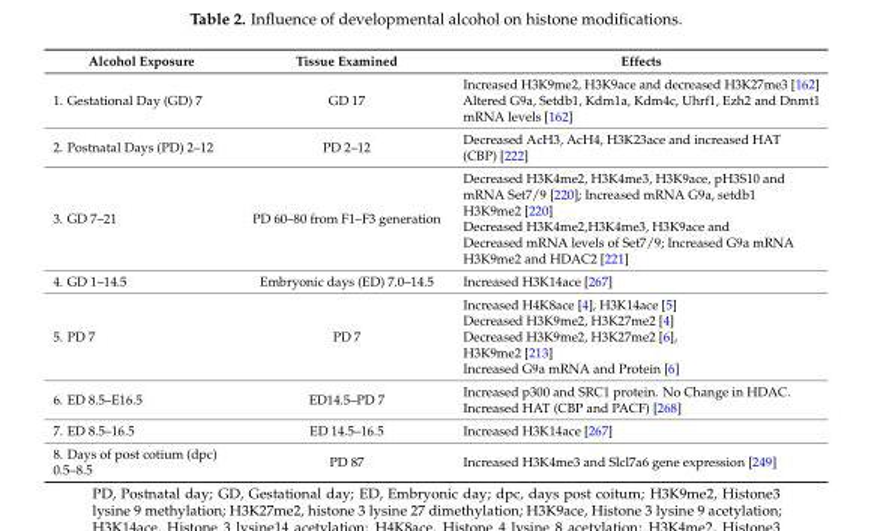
<table><thead><tr><td>Alcohol Exposure</td><td>Tissue Examined</td><td>Effects</td></tr></thead><tbody><tr><td>1. Gestational Day (GD) 7</td><td>GD 17</td><td>Increased H3K9me2, H3K9ace and decreased H3K27me3 [162] Altered G9a, Setdb1, Kdm1a, Kdm4c, Uhrf1, Ezh2 and Dnmt1 mRNA levels [162]</td></tr><tr><td>2. Postnatal Days (PD) 2–12</td><td>PD 2–12</td><td>Decreased AcH3, AcH4, H3K23ace and increased HAT (CBP) [222]</td></tr><tr><td>3. GD 7–21</td><td>PD 60–80 from F1–F3 generation</td><td>Decreased H3K4me2, H3K4me3, H3K9ace, pH3S10 and mRNA Set7/9 [220]; Increased mRNA G9a, setdb1 H3K9me2 [220] Decreased H3K4me2,H3K4me3, H3K9ace and Decreased mRNA levels of Set7/9; Increased G9a mRNA H3K9me2 and HDAC2 [221]</td></tr><tr><td>4. GD 1–14.5</td><td>Embryonic days (ED) 7.0–14.5</td><td>Increased H3K14ace [267]</td></tr><tr><td>5. PD 7</td><td>PD 7</td><td>Increased H4K8ace [4], H3K14ace [5] Decreased H3K9me2, H3K27me2 [4] Decreased H3K9me2, H3K27me2 [6], H3K9me2 [213] Increased G9a mRNA and Protein [6]</td></tr><tr><td>6. ED 8.5–E16.5</td><td>ED14.5–PD 7</td><td>Increased p300 and SRC1 protein. No Change in HDAC. Increased HAT (CBP and PACF) [268]</td></tr><tr><td>7. ED 8.5–16.5</td><td>ED 14.5–16.5</td><td>Increased H3K14ace [267]</td></tr><tr><td>8. Days of post cotium (dpc) 0.5–8.5</td><td>PD 87</td><td>Increased H3K4me3 and Slcl7a6 gene expression [249]</td></tr></tbody></table>